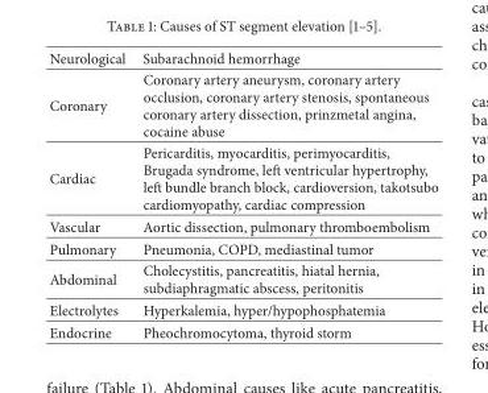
<table><thead><tr><td>Neurological</td><td>Subarachnoid hemorrhage</td></tr></thead><tbody><tr><td>Coronary</td><td>Coronary artery aneurysm, coronary artery occlusion, coronary artery stenosis, spontaneous coronary artery dissection, prinzmetal angina, cocaine abuse</td></tr><tr><td>Cardiac</td><td>Pericarditis, myocarditis, perimyocarditis, Brugada syndrome, left ventricular hypertrophy, left bundle branch block, cardioversion, takotsubo cardiomyopathy, cardiac compression</td></tr><tr><td>Vascular</td><td>Aortic dissection, pulmonary thromboembolism</td></tr><tr><td>Pulmonary</td><td>Pneumonia, COPD, mediastinal tumor</td></tr><tr><td>Abdominal</td><td>Cholecystitis, pancreatitis, hiatal hernia, subdiaphragmatic abscess, peritonitis</td></tr><tr><td>Electrolytes</td><td>Hyperkalemia, hyper/hypophosphatemia</td></tr><tr><td>Endocrine</td><td>Pheochromocytoma, thyroid storm</td></tr></tbody></table>